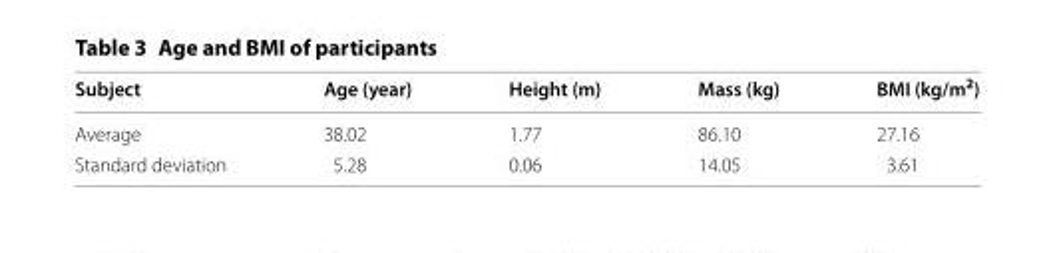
<table><thead><tr><td>Subject</td><td>Age (year)</td><td>Height (m)</td><td>Mass (kg)</td><td>BMI (kg/m<sup>2</sup>)</td></tr></thead><tbody><tr><td>Average</td><td>38.02</td><td>1.77</td><td>86.10</td><td>27.16</td></tr><tr><td>Standard deviation</td><td>5.28</td><td>0.06</td><td>14.05</td><td>3.61</td></tr></tbody></table>